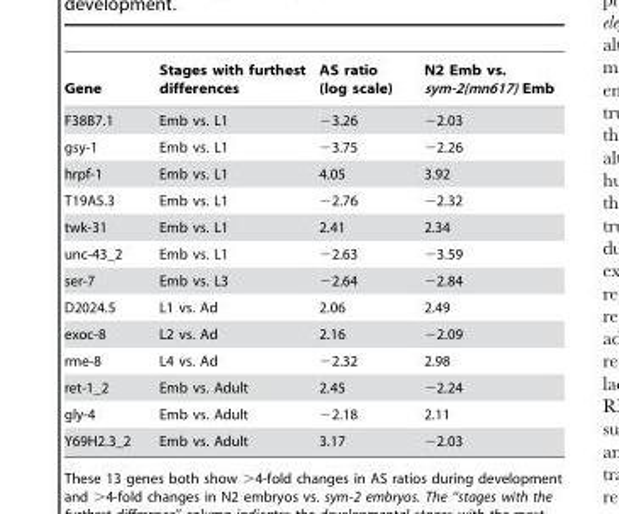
<table><thead><tr><td>Gene</td><td>Stages with furthest differences</td><td>AS ratio (log scale)</td><td>N2 Emb vs. sym-2(mn617) Emb</td></tr></thead><tbody><tr><td>F38B7.1</td><td>Emb vs. L1</td><td>−3.26</td><td>−2.03</td></tr><tr><td>gsy-1</td><td>Emb vs. L1</td><td>−3.75</td><td>−2.26</td></tr><tr><td>hrpf-1</td><td>Emb vs. L1</td><td>4.05</td><td>3.92</td></tr><tr><td>T19A5.3</td><td>Emb vs. L1</td><td>−2.76</td><td>−2.32</td></tr><tr><td>twk-31</td><td>Emb vs. L1</td><td>2.41</td><td>2.34</td></tr><tr><td>unc-43_2</td><td>Emb vs. L1</td><td>−2.63</td><td>−3.59</td></tr><tr><td>ser-7</td><td>Emb vs. L3</td><td>−2.64</td><td>−2.84</td></tr><tr><td>D2024.5</td><td>L1 vs. Ad</td><td>2.06</td><td>2.49</td></tr><tr><td>exoc-8</td><td>L2 vs. Ad</td><td>2.16</td><td>−2.09</td></tr><tr><td>rme-8</td><td>L4 vs. Ad</td><td>−2.32</td><td>2.98</td></tr><tr><td>ret-1_2</td><td>Emb vs. Adult</td><td>2.45</td><td>−2.24</td></tr><tr><td>gly-4</td><td>Emb vs. Adult</td><td>−2.18</td><td>2.11</td></tr><tr><td>Y69H2.3_2</td><td>Emb vs. Adult</td><td>3.17</td><td>−2.03</td></tr></tbody></table>